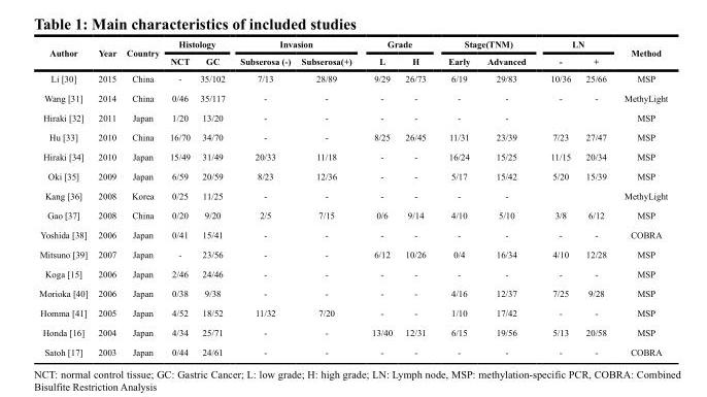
<table><thead><tr><td rowspan="2">Author</td><td rowspan="2">Year</td><td rowspan="2">Country</td><td colspan="2">Histology</td><td colspan="2">Invasion</td><td colspan="2">Grade</td><td colspan="2">Stage(TNM)</td><td colspan="2">LN</td><td rowspan="2">Method</td></tr><tr><td>NCT</td><td>GC</td><td>Subserosa (-)</td><td>Subserosa(+)</td><td>L</td><td>H</td><td>Early</td><td>Advanced</td><td>-</td><td>+</td></tr></thead><tbody><tr><td>Li [30]</td><td>2015</td><td>China</td><td>-</td><td>35/102</td><td>7/13</td><td>28/89</td><td>9/29</td><td>26/73</td><td>6/19</td><td>29/83</td><td>10/36</td><td>25/66</td><td>MSP</td></tr><tr><td>Wang [31]</td><td>2014</td><td>China</td><td>0/46</td><td>35/117</td><td>-</td><td>-</td><td>-</td><td>-</td><td>-</td><td>-</td><td>-</td><td>-</td><td>MethyLight</td></tr><tr><td>Hiraki [32]</td><td>2011</td><td>Japan</td><td>1/20</td><td>13/20</td><td>-</td><td>-</td><td>-</td><td>-</td><td>-</td><td>-</td><td></td><td></td><td>MSP</td></tr><tr><td>Hu [33]</td><td>2010</td><td>China</td><td>16/70</td><td>34/70</td><td>-</td><td>-</td><td>8/25</td><td>26/45</td><td>11/31</td><td>23/39</td><td>7/23</td><td>27/47</td><td>MSP</td></tr><tr><td>Hiraki [34]</td><td>2010</td><td>Japan</td><td>15/49</td><td>31/49</td><td>20/33</td><td>11/18</td><td>-</td><td>-</td><td>16/24</td><td>15/25</td><td>11/15</td><td>20/34</td><td>MSP</td></tr><tr><td>Oki [35]</td><td>2009</td><td>Japan</td><td>6/59</td><td>20/59</td><td>8/23</td><td>12/36</td><td>-</td><td>-</td><td>5/17</td><td>15/42</td><td>5/20</td><td>15/39</td><td>MSP</td></tr><tr><td>Kang [36]</td><td>2008</td><td>Korea</td><td>0/25</td><td>11/25</td><td>-</td><td>-</td><td>-</td><td>-</td><td>-</td><td>-</td><td></td><td></td><td>MethyLight</td></tr><tr><td>Gao [37]</td><td>2008</td><td>China</td><td>0/20</td><td>9/20</td><td>2/5</td><td>7/15</td><td>0/6</td><td>9/14</td><td>4/10</td><td>5/10</td><td>3/8</td><td>6/12</td><td>MSP</td></tr><tr><td>Yoshida [38]</td><td>2006</td><td>Japan</td><td>0/41</td><td>15/41</td><td>-</td><td>-</td><td>-</td><td>-</td><td>-</td><td>-</td><td>-</td><td>-</td><td>COBRA</td></tr><tr><td>Mitsuno [39]</td><td>2007</td><td>Japan</td><td>-</td><td>23/56</td><td>-</td><td>-</td><td>6/12</td><td>10/26</td><td>0/4</td><td>16/34</td><td>4/10</td><td>12/28</td><td>MSP</td></tr><tr><td>Koga [15]</td><td>2006</td><td>Japan</td><td>2/46</td><td>24/46</td><td>-</td><td>-</td><td>-</td><td>-</td><td>-</td><td>-</td><td>-</td><td>-</td><td>MSP</td></tr><tr><td>Morioka [40]</td><td>2006</td><td>Japan</td><td>0/38</td><td>9/38</td><td>-</td><td>-</td><td>-</td><td>-</td><td>4/16</td><td>12/37</td><td>7/25</td><td>9/28</td><td>MSP</td></tr><tr><td>Homma [41]</td><td>2005</td><td>Japan</td><td>4/52</td><td>18/52</td><td>11/32</td><td>7/20</td><td>-</td><td>-</td><td>1/10</td><td>17/42</td><td>-</td><td>-</td><td>MSP</td></tr><tr><td>Honda [16]</td><td>2004</td><td>Japan</td><td>4/34</td><td>25/71</td><td>-</td><td>-</td><td>13/40</td><td>12/31</td><td>6/15</td><td>19/56</td><td>5/13</td><td>20/58</td><td>MSP</td></tr><tr><td>Satoh [17]</td><td>2003</td><td>Japan</td><td>0/44</td><td>24/61</td><td>-</td><td>-</td><td>-</td><td>-</td><td>-</td><td>-</td><td>-</td><td>-</td><td>COBRA</td></tr></tbody></table>